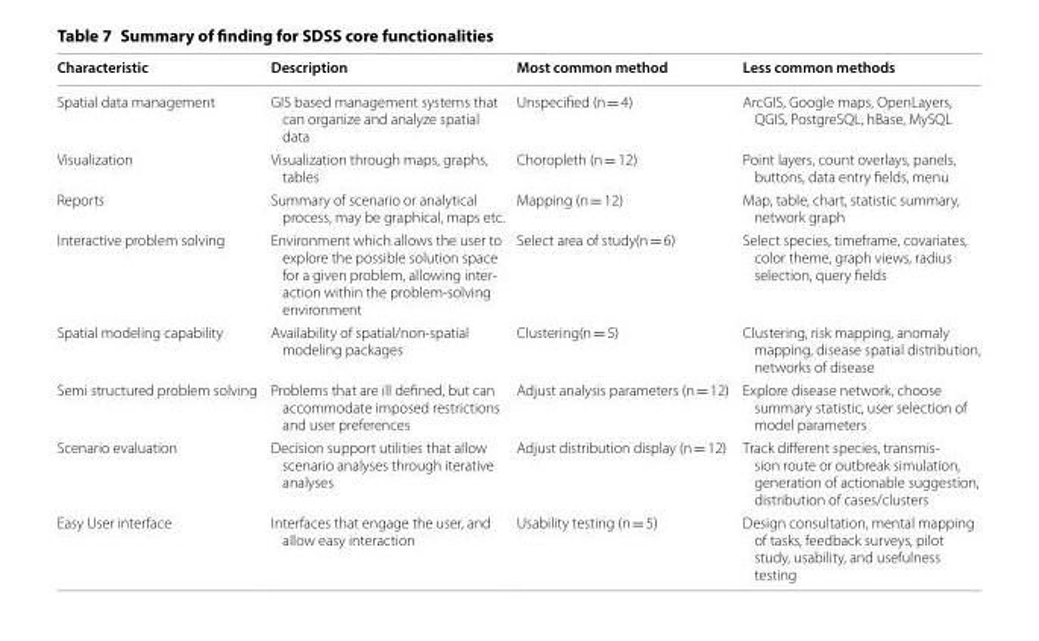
<table><thead><tr><td>Characteristic</td><td>Description</td><td>Most common method</td><td>Less common methods</td></tr></thead><tbody><tr><td>Spatial data management</td><td>GIS based management systems that can organize and analyze spatial data</td><td>Unspecified (n = 4)</td><td>ArcGIS, Google maps, OpenLayers, QGIS, PostgreSQL, hBase, MySQL</td></tr><tr><td>Visualization</td><td>Visualization through maps, graphs, tables</td><td>Choropleth (n = 12)</td><td>Point layers, count overlays, panels, buttons, data entry fields, menu</td></tr><tr><td>Reports</td><td>Summary of scenario or analytical process, may be graphical, maps etc.</td><td>Mapping (n = 12)</td><td>Map, table, chart, statistic summary, network graph</td></tr><tr><td>Interactive problem solving</td><td>Environment which allows the user to explore the possible solution space for a given problem, allowing inter- action within the problem-solving environment</td><td>Select area of study(n = 6)</td><td>Select species, timeframe, covariates, color theme, graph views, radius selection, query fields</td></tr><tr><td>Spatial modeling capability</td><td>Availability of spatial/non-spatial modeling packages</td><td>Clustering(n = 5)</td><td>Clustering, risk mapping, anomaly mapping, disease spatial distribution, networks of disease</td></tr><tr><td>Semi structured problem solving</td><td>Problems that are ill defined, but can accommodate imposed restrictions and user preferences</td><td>Adjust analysis parameters (n = 12)</td><td>Explore disease network, choose summary statistic, user selection of model parameters</td></tr><tr><td>Scenario evaluation</td><td>Decision support utilities that allow scenario analyses through iterative analyses</td><td>Adjust distribution display (n = 12)</td><td>Track different species, transmis- sion route or outbreak simulation, generation of actionable suggestion, distribution of cases/clusters</td></tr><tr><td>Easy User interface</td><td>Interfaces that engage the user, and allow easy interaction</td><td>Usability testing (n = 5)</td><td>Design consultation, mental mapping of tasks, feedback surveys, pilot study, usability, and usefulness testing</td></tr></tbody></table>